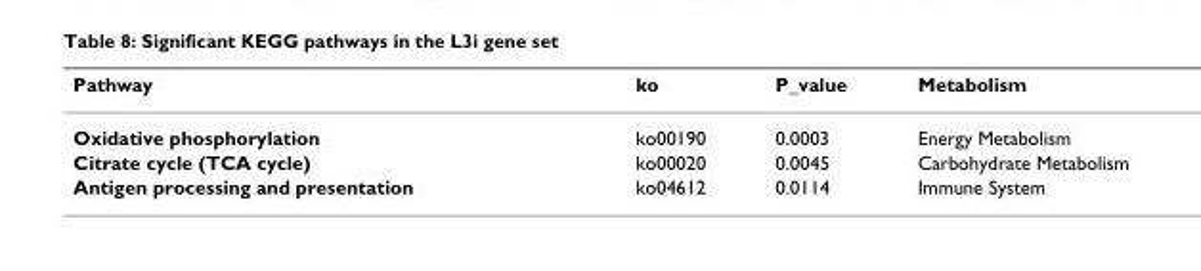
<table><thead><tr><td>Pathway</td><td>ko</td><td>P_value</td><td>Metabolism</td></tr></thead><tbody><tr><td>Oxidative phosphorylation</td><td>ko00190</td><td>0.0003</td><td>Energy Metabolism</td></tr><tr><td>Citrate cycle (TCA cycle)</td><td>ko00020</td><td>0.0045</td><td>Carbohydrate Metabolism</td></tr><tr><td>Antigen processing and presentation</td><td>ko04612</td><td>0.0114</td><td>Immune System</td></tr></tbody></table>